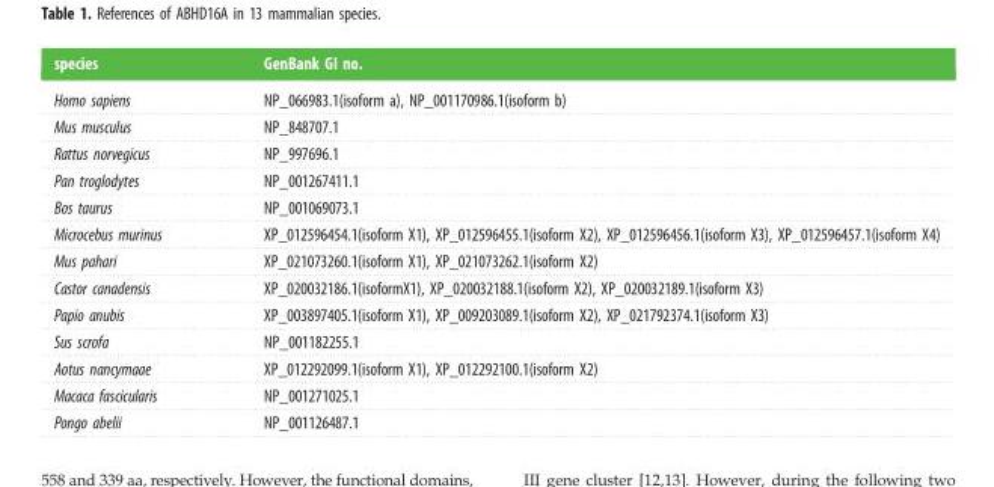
<table><thead><tr><td>species</td><td>GenBank GI no.</td></tr></thead><tbody><tr><td>Homo sapiens</td><td>NP_066983.1(isoform a), NP_001170986.1(isoform b)</td></tr><tr><td>Mus musculus</td><td>NP_848707.1</td></tr><tr><td>Rattus norvegicus</td><td>NP_997696.1</td></tr><tr><td>Pan troglodytes</td><td>NP_001267411.1</td></tr><tr><td>Bos taurus</td><td>NP_001069073.1</td></tr><tr><td>Microcebus murinus</td><td>XP_012596454.1(isoform X1), XP_012596455.1(isoform X2), XP_012596456.1(isoform X3), XP_012596457.1(isoform X4)</td></tr><tr><td>Mus pahari</td><td>XP_021073260.1(isoform X1), XP_021073262.1(isoform X2)</td></tr><tr><td>Castor canadensis</td><td>XP_020032186.1(isoformX1), XP_020032188.1(isoform X2), XP_020032189.1(isoform X3)</td></tr><tr><td>Papio anubis</td><td>XP_003897405.1(isoform X1), XP_009203089.1(isoform X2), XP_021792374.1(isoform X3)</td></tr><tr><td>Sus scrofa</td><td>NP_001182255.1</td></tr><tr><td>Aotus nancymaae</td><td>XP_012292099.1(isoform X1), XP_012292100.1(isoform X2)</td></tr><tr><td>Macaca fascicularis</td><td>NP_001271025.1</td></tr><tr><td>Pongo abelii</td><td>NP_001126487.1</td></tr></tbody></table>